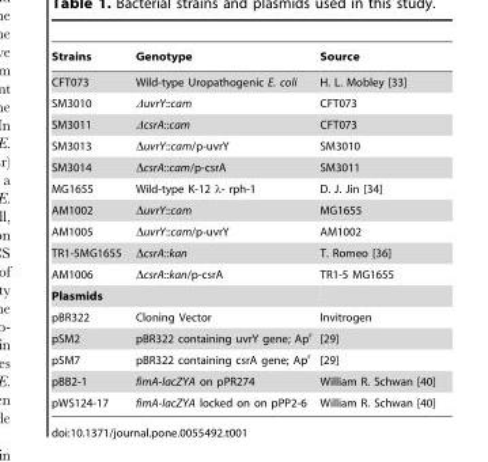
<table><thead><tr><td>Strains</td><td>Genotype</td><td>Source</td></tr></thead><tbody><tr><td>CFT073</td><td>Wild-type Uropathogenic E. coli</td><td>H. L. Mobley [33]</td></tr><tr><td>SM3010</td><td>ΔuvrY::cam</td><td>CFT073</td></tr><tr><td>SM3011</td><td>ΔcsrA::cam</td><td>CFT073</td></tr><tr><td>SM3013</td><td>ΔuvrY::cam/p-uvrY</td><td>SM3010</td></tr><tr><td>SM3014</td><td>ΔcsrA::cam/p-csrA</td><td>SM3011</td></tr><tr><td>MG1655</td><td>Wild-type K-12 λ- rph-1</td><td>D. J. Jin [34]</td></tr><tr><td>AM1002</td><td>ΔuvrY::cam</td><td>MG1655</td></tr><tr><td>AM1005</td><td>ΔuvrY::cam/p-uvrY</td><td>AM1002</td></tr><tr><td>TR1-5MG1655</td><td>ΔcsrA::kan</td><td>T. Romeo [36]</td></tr><tr><td>AM1006</td><td>ΔcsrA::kan/p-csrA</td><td>TR1-5 MG1655</td></tr><tr><td colspan="3">Plasmids</td></tr><tr><td>pBR322</td><td>Cloning Vector</td><td>Invitrogen</td></tr><tr><td>pSM2</td><td>pBR322 containing uvrY gene; Ap<sup>r</sup></td><td>[29]</td></tr><tr><td>pSM7</td><td>pBR322 containing csrA gene; Ap<sup>r</sup></td><td>[29]</td></tr><tr><td>pBB2-1</td><td>fimA-lacZYA on pPR274</td><td>William R. Schwan [40]</td></tr><tr><td>pWS124-17</td><td>fimA-lacZYA locked on on pPP2-6</td><td>William R. Schwan [40]</td></tr></tbody></table>